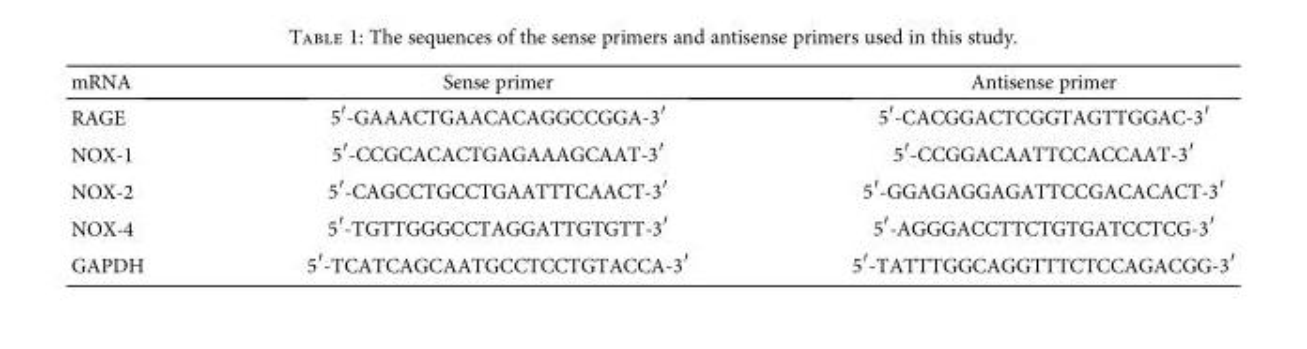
<table><thead><tr><td>mRNA</td><td>Sense primer</td><td>Antisense primer</td></tr></thead><tbody><tr><td>RAGE</td><td>5′-GAAACTGAACACAGGCCGGA-3′</td><td>5′-CACGGACTCGGTAGTTGGAC-3′</td></tr><tr><td>NOX-1</td><td>5′-CCGCACACTGAGAAAGCAAT-3′</td><td>5′-CCGGACAATTCCACCAAT-3′</td></tr><tr><td>NOX-2</td><td>5′-CAGCCTGCCTGAATTTCAACT-3′</td><td>5′-GGAGAGGAGATTCCGACACACT-3′</td></tr><tr><td>NOX-4</td><td>5′-TGTTGGGCCTAGGATTGTGTT-3′</td><td>5′-AGGGACCTTCTGTGATCCTCG-3′</td></tr><tr><td>GAPDH</td><td>5′-TCATCAGCAATGCCTCCTGTACCA-3′</td><td>5′-TATTTGGCAGGTTTCTCCAGACGG-3′</td></tr></tbody></table>